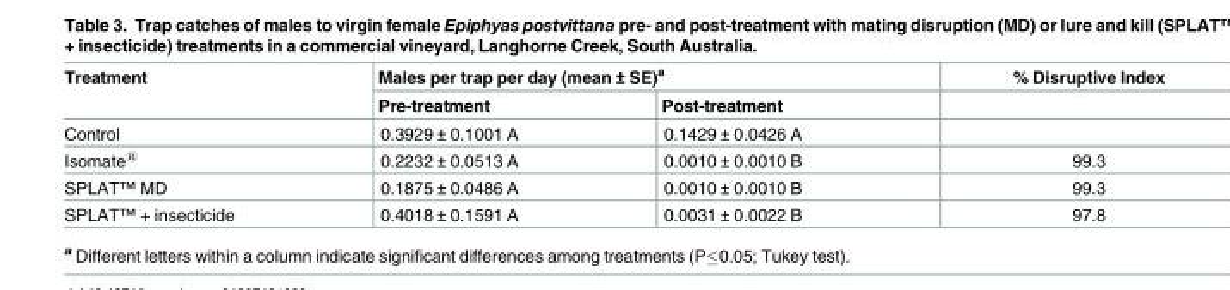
<table><thead><tr><td rowspan="2">Treatment</td><td colspan="2">Males per trap per day (mean ± SE)<sup>a</sup></td><td rowspan="2">% Disruptive Index</td></tr><tr><td>Pre-treatment</td><td>Post-treatment</td></tr></thead><tbody><tr><td>Control</td><td>0.3929 ± 0.1001 A</td><td>0.1429 ± 0.0426 A</td><td></td></tr><tr><td>Isomate<sup>®</sup></td><td>0.2232 ± 0.0513 A</td><td>0.0010 ± 0.0010 B</td><td>99.3</td></tr><tr><td>SPLAT<sup>™</sup> MD</td><td>0.1875 ± 0.0486 A</td><td>0.0010 ± 0.0010 B</td><td>99.3</td></tr><tr><td>SPLAT<sup>™</sup> + insecticide</td><td>0.4018 ± 0.1591 A</td><td>0.0031 ± 0.0022 B</td><td>97.8</td></tr></tbody></table>